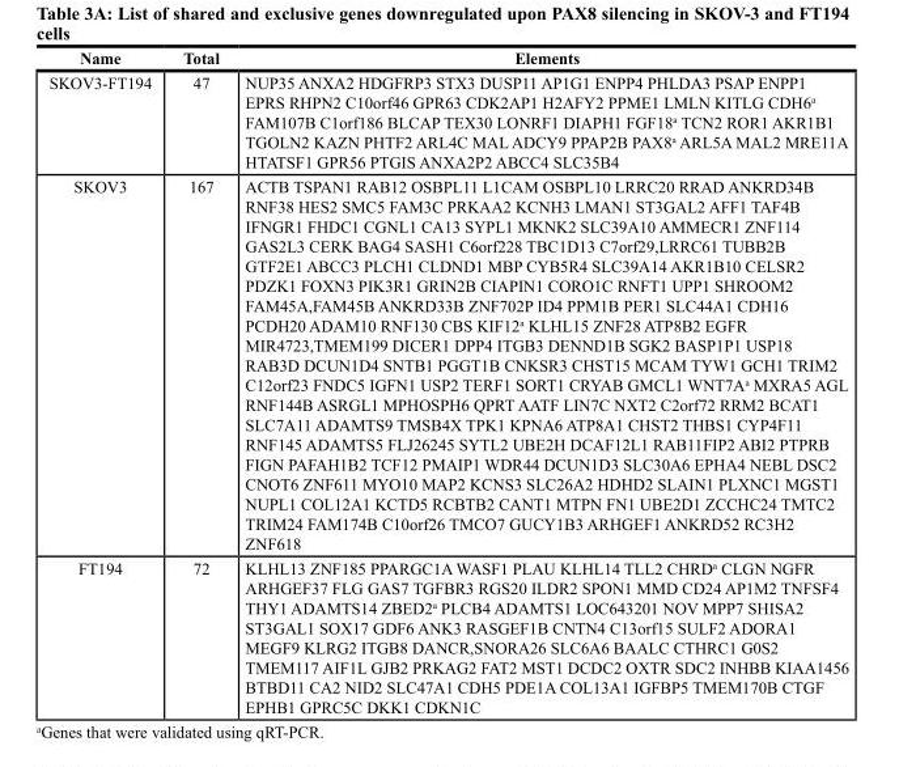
<table><thead><tr><td>Name</td><td>Total</td><td>Elements</td></tr></thead><tbody><tr><td>SKOV3-FT194</td><td>47</td><td>NUP35 ANXA2 HDGFRP3 STX3 DUSP11 AP1G1 ENPP4 PHLDA3 PSAP ENPP1 EPRS RHPN2 C10orf46 GPR63 CDK2AP1 H2AFY2 PPME1 LMLN KITLG CDH6<sup>a</sup> FAM107B C1orf186 BLCAP TEX30 LONRF1 DIAPH1 FGF18<sup>a</sup> TCN2 ROR1 AKR1B1 TGOLN2 KAZN PHTF2 ARL4C MAL ADCY9 PPAP2B PAX8<sup>a</sup> ARL5A MAL2 MRE11A HTATSF1 GPR56 PTGIS ANXA2P2 ABCC4 SLC35B4</td></tr><tr><td>SKOV3</td><td>167</td><td>ACTB TSPAN1 RAB12 OSBPL11 L1CAM OSBPL10 LRRC20 RRAD ANKRD34B RNF38 HES2 SMC5 FAM3C PRKAA2 KCNH3 LMAN1 ST3GAL2 AFF1 TAF4B IFNGR1 FHDC1 CGNL1 CA13 SYPL1 MKNK2 SLC39A10 AMMECR1 ZNF114 GAS2L3 CERK BAG4 SASH1 C6orf228 TBC1D13 C7orf29,LRRC61 TUBB2B GTF2E1 ABCC3 PLCH1 CLDND1 MBP CYB5R4 SLC39A14 AKR1B10 CELSR2 PDZK1 FOXN3 PIK3R1 GRIN2B CIAPIN1 CORO1C RNFT1 UPP1 SHROOM2 FAM45A,FAM45B ANKRD33B ZNF702P ID4 PPM1B PER1 SLC44A1 CDH16 PCDH20 ADAM10 RNF130 CBS KIF12<sup>a</sup> KLHL15 ZNF28 ATP8B2 EGFR MIR4723,TMEM199 DICER1 DPP4 ITGB3 DENND1B SGK2 BASP1P1 USP18 RAB3D DCUN1D4 SNTB1 PGGT1B CNKSR3 CHST15 MCAM TYW1 GCH1 TRIM2 C12orf23 FNDC5 IGFN1 USP2 TERF1 SORT1 CRYAB GMCL1 WNT7A<sup>a</sup> MXRA5 AGL RNF144B ASRGL1 MPHOSPH6 QPRT AATF LIN7C NXT2 C2orf72 RRM2 BCAT1 SLC7A11 ADAMTS9 TMSB4X TPK1 KPNA6 ATP8A1 CHST2 THBS1 CYP4F11 RNF145 ADAMTS5 FLJ26245 SYTL2 UBE2H DCAF12L1 RAB11FIP2 ABI2 PTPRB FIGN PAFAH1B2 TCF12 PMAIP1 WDR44 DCUN1D3 SLC30A6 EPHA4 NEBL DSC2 CNOT6 ZNF611 MYO10 MAP2 KCNS3 SLC26A2 HDHD2 SLAIN1 PLXNC1 MGST1 NUPL1 COL12A1 KCTD5 RCBTB2 CANT1 MTPN FN1 UBE2D1 ZCCHC24 TMTC2 TRIM24 FAM174B C10orf26 TMCO7 GUCY1B3 ARHGEF1 ANKRD52 RC3H2 ZNF618</td></tr><tr><td>FT194</td><td>72</td><td>KLHL13 ZNF185 PPARGC1A WASF1 PLAU KLHL14 TLL2 CHRD<sup>a</sup> CLGN NGFR ARHGEF37 FLG GAS7 TGFBR3 RGS20 ILDR2 SPON1 MMD CD24 AP1M2 TNFSF4 THY1 ADAMTS14 ZBED2<sup>a</sup> PLCB4 ADAMTS1 LOC643201 NOV MPP7 SHISA2 ST3GAL1 SOX17 GDF6 ANK3 RASGEF1B CNTN4 C13orf15 SULF2 ADORA1 MEGF9 KLRG2 ITGB8 DANCR,SNORA26 SLC6A6 BAALC CTHRC1 G0S2 TMEM117 AIF1L GJB2 PRKAG2 FAT2 MST1 DCDC2 OXTR SDC2 INHBB KIAA1456 BTBD11 CA2 NID2 SLC47A1 CDH5 PDE1A COL13A1 IGFBP5 TMEM170B CTGF EPHB1 GPRC5C DKK1 CDKN1C</td></tr></tbody></table>